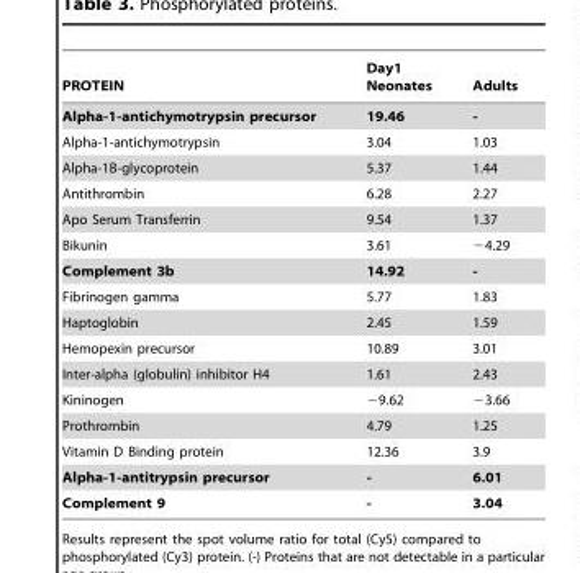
<table><thead><tr><td>PROTEIN</td><td>Day1 Neonates</td><td>Adults</td></tr></thead><tbody><tr><td>Alpha-1-antichymotrypsin precursor</td><td>19.46</td><td>-</td></tr><tr><td>Alpha-1-antichymotrypsin</td><td>3.04</td><td>1.03</td></tr><tr><td>Alpha-1B-glycoprotein</td><td>5.37</td><td>1.44</td></tr><tr><td>Antithrombin</td><td>6.28</td><td>2.27</td></tr><tr><td>Apo Serum Transferrin</td><td>9.54</td><td>1.37</td></tr><tr><td>Bikunin</td><td>3.61</td><td>−4.29</td></tr><tr><td>Complement 3b</td><td>14.92</td><td>-</td></tr><tr><td>Fibrinogen gamma</td><td>5.77</td><td>1.83</td></tr><tr><td>Haptoglobin</td><td>2.45</td><td>1.59</td></tr><tr><td>Hemopexin precursor</td><td>10.89</td><td>3.01</td></tr><tr><td>Inter-alpha (globulin) inhibitor H4</td><td>1.61</td><td>2.43</td></tr><tr><td>Kininogen</td><td>−9.62</td><td>−3.66</td></tr><tr><td>Prothrombin</td><td>4.79</td><td>1.25</td></tr><tr><td>Vitamin D Binding protein</td><td>12.36</td><td>3.9</td></tr><tr><td>Alpha-1-antitrypsin precursor</td><td>-</td><td>6.01</td></tr><tr><td>Complement 9</td><td>-</td><td>3.04</td></tr></tbody></table>